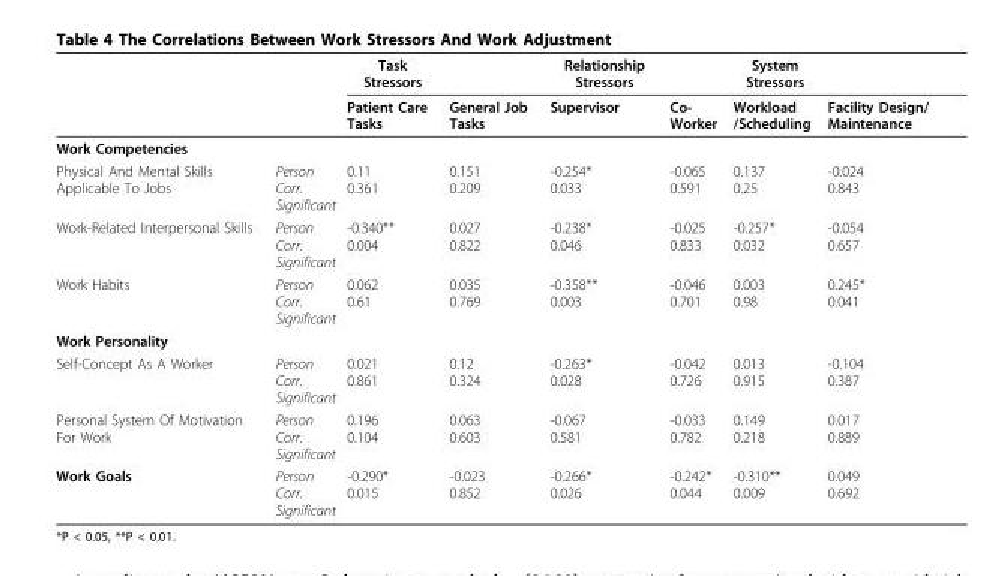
<table><thead><tr><td rowspan="2"></td><td rowspan="2"></td><td rowspan="2">Task Stressors Patient Care Tasks</td><td rowspan="2">General Job Tasks</td><td rowspan="2">Relationship Stressors Supervisor</td><td rowspan="2">Co- Worker</td><td rowspan="2">System Stressors Workload /Scheduling</td><td rowspan="2">Facility Design/ Maintenance</td></tr><tr></tr></thead><tbody><tr><td colspan="8">Work Competencies</td></tr><tr><td>Physical And Mental Skills Applicable To Jobs</td><td>Person Corr. Significant</td><td>0.11 0.361</td><td>0.151 0.209</td><td>-0.254* 0.033</td><td>-0.065 0.591</td><td>0.137 0.25</td><td>-0.024 0.843</td></tr><tr><td>Work-Related Interpersonal Skills</td><td>Person Corr. Significant</td><td>-0.340** 0.004</td><td>0.027 0.822</td><td>-0.238* 0.046</td><td>-0.025 0.833</td><td>-0.257* 0.032</td><td>-0.054 0.657</td></tr><tr><td>Work Habits</td><td>Person Corr. Significant</td><td>0.062 0.61</td><td>0.035 0.769</td><td>-0.358** 0.003</td><td>-0.046 0.701</td><td>0.003 0.98</td><td>0.245* 0.041</td></tr><tr><td colspan="8">Work Personality</td></tr><tr><td>Self-Concept As A Worker</td><td>Person Corr. Significant</td><td>0.021 0.861</td><td>0.12 0.324</td><td>-0.263* 0.028</td><td>-0.042 0.726</td><td>0.013 0.915</td><td>-0.104 0.387</td></tr><tr><td>Personal System Of Motivation For Work</td><td>Person Corr. Significant</td><td>0.196 0.104</td><td>0.063 0.603</td><td>-0.067 0.581</td><td>-0.033 0.782</td><td>0.149 0.218</td><td>0.017 0.889</td></tr><tr><td>Work Goals</td><td>Person Corr. Significant</td><td>-0.290* 0.015</td><td>-0.023 0.852</td><td>-0.266* 0.026</td><td>-0.242* 0.044</td><td>-0.310** 0.009</td><td>0.049 0.692</td></tr></tbody></table>